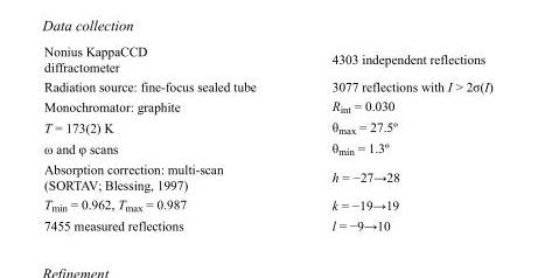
<table><tbody><tr><td>Nonius KappaCCD diffractometer</td><td>4303 independent reflections</td></tr><tr><td>Radiation source: fine-focus sealed tube</td><td>3077 reflections with I &gt; 2σ(I)</td></tr><tr><td>Monochromator: graphite</td><td>R<sub>int</sub> = 0.030</td></tr><tr><td>T = 173(2) K</td><td>θ<sub>max</sub> = 27.5º</td></tr><tr><td>ω and φ scans</td><td>θ<sub>min</sub> = 1.3º</td></tr><tr><td>Absorption correction: multi-scan (SORTAV; Blessing, 1997)</td><td>h = −27→28</td></tr><tr><td>T<sub>min</sub> = 0.962, T<sub>max</sub> = 0.987</td><td>k = −19→19</td></tr><tr><td>7455 measured reflections</td><td>l = −9→10</td></tr></tbody></table>